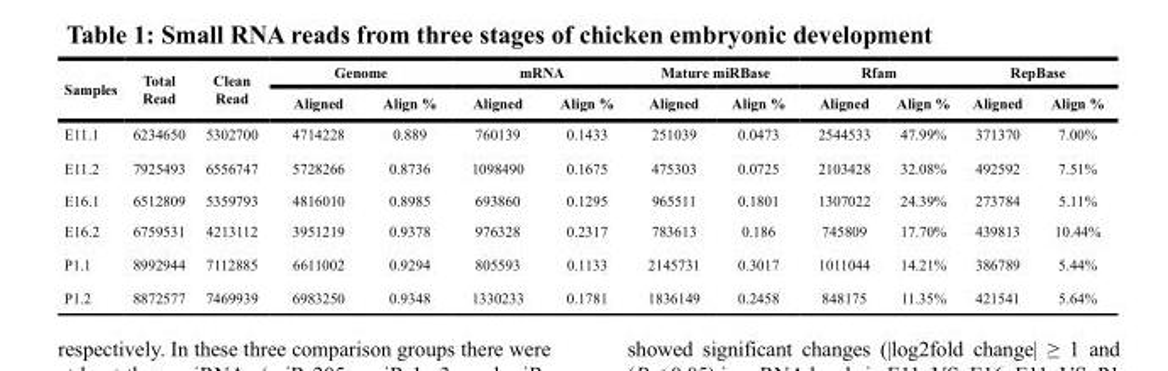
<table><thead><tr><td rowspan="2">Samples</td><td rowspan="2">Total Read</td><td rowspan="2">Clean Read</td><td colspan="2">Genome</td><td colspan="2">mRNA</td><td colspan="2">Mature miRBase</td><td colspan="2">Rfam</td><td colspan="2">RepBase</td></tr><tr><td>Aligned</td><td>Align %</td><td>Aligned</td><td>Align %</td><td>Aligned</td><td>Align %</td><td>Aligned</td><td>Align %</td><td>Aligned</td><td>Align %</td></tr></thead><tbody><tr><td>E11.1</td><td>6234650</td><td>5302700</td><td>4714228</td><td>0.889</td><td>760139</td><td>0.1433</td><td>251039</td><td>0.0473</td><td>2544533</td><td>47.99%</td><td>371370</td><td>7.00%</td></tr><tr><td>E11.2</td><td>7925493</td><td>6556747</td><td>5728266</td><td>0.8736</td><td>1098490</td><td>0.1675</td><td>475303</td><td>0.0725</td><td>2103428</td><td>32.08%</td><td>492592</td><td>7.51%</td></tr><tr><td>E16.1</td><td>6512809</td><td>5359793</td><td>4816010</td><td>0.8985</td><td>693860</td><td>0.1295</td><td>965511</td><td>0.1801</td><td>1307022</td><td>24.39%</td><td>273784</td><td>5.11%</td></tr><tr><td>E16.2</td><td>6759531</td><td>4213112</td><td>3951219</td><td>0.9378</td><td>976328</td><td>0.2317</td><td>783613</td><td>0.186</td><td>745809</td><td>17.70%</td><td>439813</td><td>10.44%</td></tr><tr><td>P1.1</td><td>8992944</td><td>7112885</td><td>6611002</td><td>0.9294</td><td>805593</td><td>0.1133</td><td>2145731</td><td>0.3017</td><td>1011044</td><td>14.21%</td><td>386789</td><td>5.44%</td></tr><tr><td>P1.2</td><td>8872577</td><td>7469939</td><td>6983250</td><td>0.9348</td><td>1330233</td><td>0.1781</td><td>1836149</td><td>0.2458</td><td>848175</td><td>11.35%</td><td>421541</td><td>5.64%</td></tr></tbody></table>